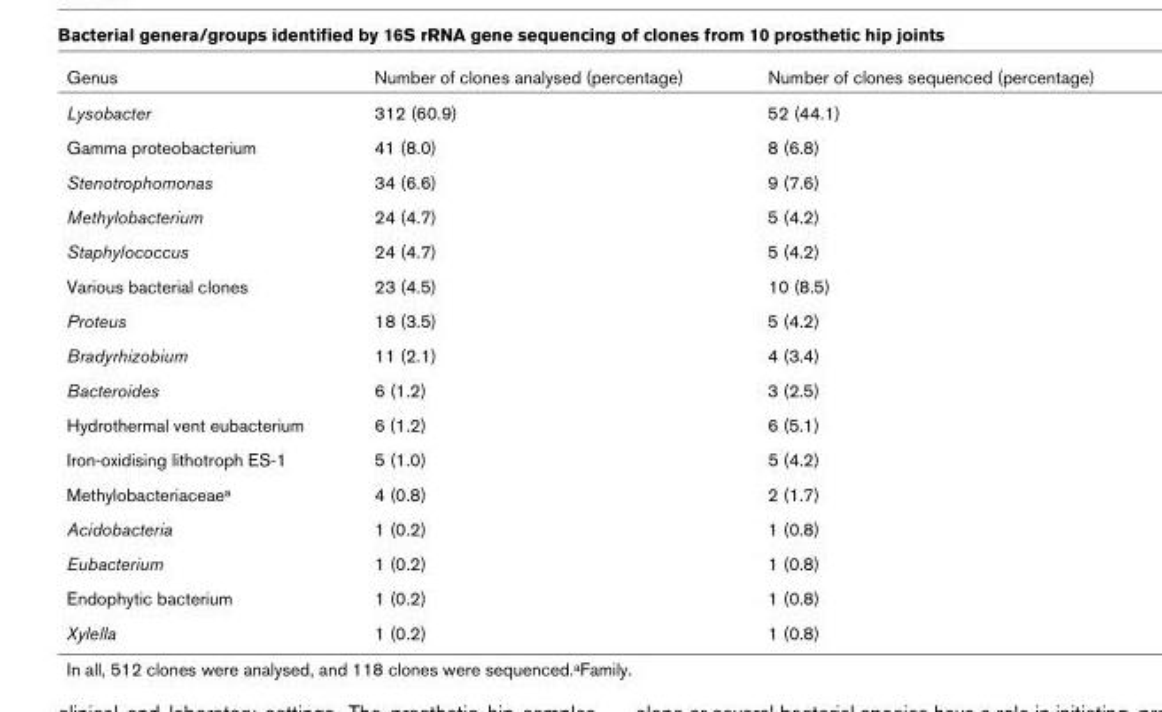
<table><thead><tr><td>Genus</td><td>Number of clones analysed (percentage)</td><td>Number of clones sequenced (percentage)</td></tr></thead><tbody><tr><td>Lysobacter</td><td>312 (60.9)</td><td>52 (44.1)</td></tr><tr><td>Gamma proteobacterium</td><td>41 (8.0)</td><td>8 (6.8)</td></tr><tr><td>Stenotrophomonas</td><td>34 (6.6)</td><td>9 (7.6)</td></tr><tr><td>Methylobacterium</td><td>24 (4.7)</td><td>5 (4.2)</td></tr><tr><td>Staphylococcus</td><td>24 (4.7)</td><td>5 (4.2)</td></tr><tr><td>Various bacterial clones</td><td>23 (4.5)</td><td>10 (8.5)</td></tr><tr><td>Proteus</td><td>18 (3.5)</td><td>5 (4.2)</td></tr><tr><td>Bradyrhizobium</td><td>11 (2.1)</td><td>4 (3.4)</td></tr><tr><td>Bacteroides</td><td>6 (1.2)</td><td>3 (2.5)</td></tr><tr><td>Hydrothermal vent eubacterium</td><td>6 (1.2)</td><td>6 (5.1)</td></tr><tr><td>Iron-oxidising lithotroph ES-1</td><td>5 (1.0)</td><td>5 (4.2)</td></tr><tr><td>Methylobacteriaceae<sup>a</sup></td><td>4 (0.8)</td><td>2 (1.7)</td></tr><tr><td>Acidobacteria</td><td>1 (0.2)</td><td>1 (0.8)</td></tr><tr><td>Eubacterium</td><td>1 (0.2)</td><td>1 (0.8)</td></tr><tr><td>Endophytic bacterium</td><td>1 (0.2)</td><td>1 (0.8)</td></tr><tr><td>Xylella</td><td>1 (0.2)</td><td>1 (0.8)</td></tr></tbody></table>